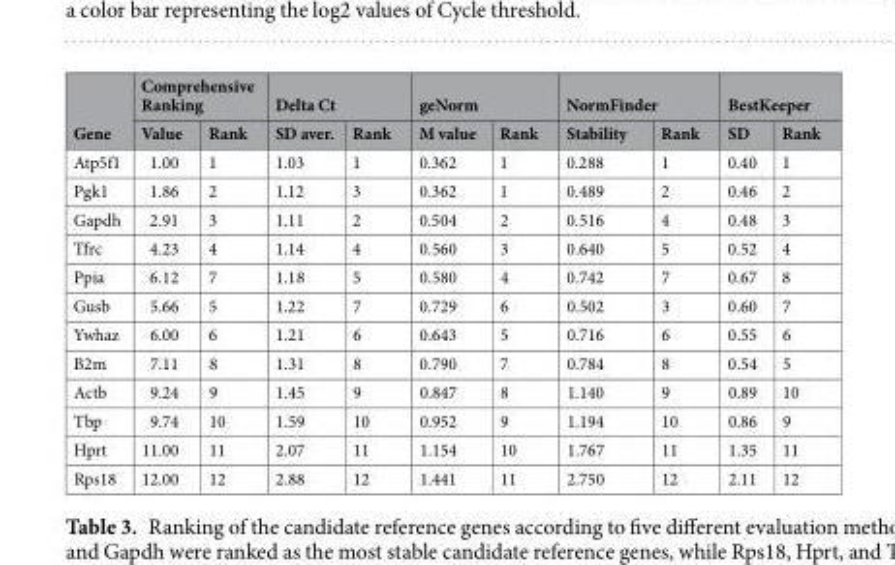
<table><thead><tr><td rowspan="2">Gene</td><td colspan="2">Comprehensive Ranking</td><td colspan="2">Delta Ct</td><td colspan="2">geNorm</td><td colspan="2">NormFinder</td><td colspan="2">BestKeeper</td></tr><tr><td>Value</td><td>Rank</td><td>SD aver.</td><td>Rank</td><td>M value</td><td>Rank</td><td>Stability</td><td>Rank</td><td>SD</td><td>Rank</td></tr></thead><tbody><tr><td>Atp5f1</td><td>1.00</td><td>1</td><td>1.03</td><td>1</td><td>0.362</td><td>1</td><td>0.288</td><td>1</td><td>0.40</td><td>1</td></tr><tr><td>Pgk1</td><td>1.86</td><td>2</td><td>1.12</td><td>3</td><td>0.362</td><td>1</td><td>0.489</td><td>2</td><td>0.46</td><td>2</td></tr><tr><td>Gapdh</td><td>2.91</td><td>3</td><td>1.11</td><td>2</td><td>0.504</td><td>2</td><td>0.516</td><td>4</td><td>0.48</td><td>3</td></tr><tr><td>Tfrc</td><td>4.23</td><td>4</td><td>1.14</td><td>4</td><td>0.560</td><td>3</td><td>0.640</td><td>5</td><td>0.52</td><td>4</td></tr><tr><td>Ppia</td><td>6.12</td><td>7</td><td>1.18</td><td>5</td><td>0.580</td><td>4</td><td>0.742</td><td>7</td><td>0.67</td><td>8</td></tr><tr><td>Gusb</td><td>5.66</td><td>5</td><td>1.22</td><td>7</td><td>0.729</td><td>6</td><td>0.502</td><td>3</td><td>0.60</td><td>7</td></tr><tr><td>Ywhaz</td><td>6.00</td><td>6</td><td>1.21</td><td>6</td><td>0.643</td><td>5</td><td>0.716</td><td>6</td><td>0.55</td><td>6</td></tr><tr><td>B2m</td><td>7.11</td><td>8</td><td>1.31</td><td>8</td><td>0.790</td><td>7</td><td>0.784</td><td>8</td><td>0.54</td><td>5</td></tr><tr><td>Actb</td><td>9.24</td><td>9</td><td>1.45</td><td>9</td><td>0.847</td><td>8</td><td>1.140</td><td>9</td><td>0.89</td><td>10</td></tr><tr><td>Tbp</td><td>9.74</td><td>10</td><td>1.59</td><td>10</td><td>0.952</td><td>9</td><td>1.194</td><td>10</td><td>0.86</td><td>9</td></tr><tr><td>Hprt</td><td>11.00</td><td>11</td><td>2.07</td><td>11</td><td>1.154</td><td>10</td><td>1.767</td><td>11</td><td>1.35</td><td>11</td></tr><tr><td>Rps18</td><td>12.00</td><td>12</td><td>2.88</td><td>12</td><td>1.441</td><td>11</td><td>2.750</td><td>12</td><td>2.11</td><td>12</td></tr></tbody></table>